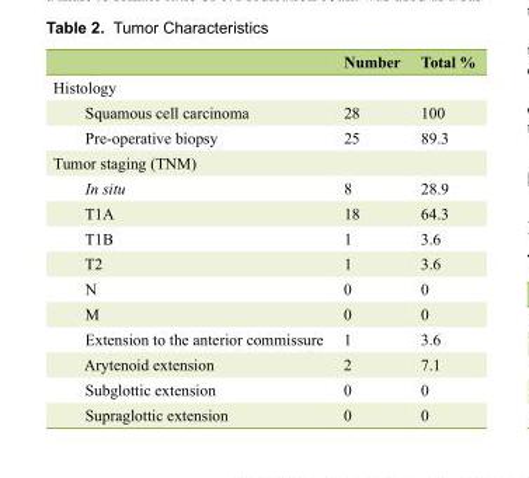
<table><thead><tr><td></td><td>Number</td><td>Total %</td></tr></thead><tbody><tr><td colspan="3">Histology</td></tr><tr><td>Squamous cell carcinoma</td><td>28</td><td>100</td></tr><tr><td>Pre-operative biopsy</td><td>25</td><td>89.3</td></tr><tr><td colspan="3">Tumor staging (TNM)</td></tr><tr><td>In situ</td><td>8</td><td>28.9</td></tr><tr><td>T1A</td><td>18</td><td>64.3</td></tr><tr><td>T1B</td><td>1</td><td>3.6</td></tr><tr><td>T2</td><td>1</td><td>3.6</td></tr><tr><td>N</td><td>0</td><td>0</td></tr><tr><td>M</td><td>0</td><td>0</td></tr><tr><td>Extension to the anterior commissure</td><td>1</td><td>3.6</td></tr><tr><td>Arytenoid extension</td><td>2</td><td>7.1</td></tr><tr><td>Subglottic extension</td><td>0</td><td>0</td></tr><tr><td>Supraglottic extension</td><td>0</td><td>0</td></tr></tbody></table>